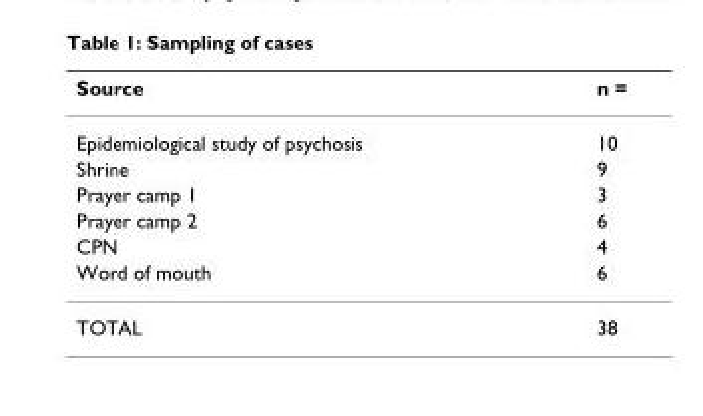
<table><thead><tr><td>Source</td><td>n =</td></tr></thead><tbody><tr><td>Epidemiological study of psychosis</td><td>10</td></tr><tr><td>Shrine</td><td>9</td></tr><tr><td>Prayer camp 1</td><td>3</td></tr><tr><td>Prayer camp 2</td><td>6</td></tr><tr><td>CPN</td><td>4</td></tr><tr><td>Word of mouth</td><td>6</td></tr><tr><td>TOTAL</td><td>38</td></tr></tbody></table>